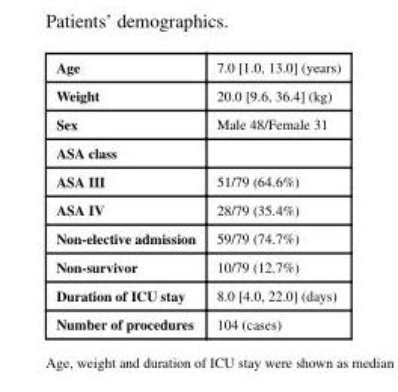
<table><tbody><tr><td>Age</td><td>7.0 [1.0, 13.0] (years)</td></tr><tr><td>Weight</td><td>20.0 [9.6, 36.4] (kg)</td></tr><tr><td>Sex</td><td>Male 48/Female 31</td></tr><tr><td colspan="2">ASA class</td></tr><tr><td>ASA III</td><td>51/79 (64.6%)</td></tr><tr><td>ASA IV</td><td>28/79 (35.4%)</td></tr><tr><td>Non-elective admission</td><td>59/79 (74.7%)</td></tr><tr><td>Non-survivor</td><td>10/79 (12.7%)</td></tr><tr><td>Duration of ICU stay</td><td>8.0 [4.0, 22.0] (days)</td></tr><tr><td>Number of procedures</td><td>104 (cases)</td></tr></tbody></table>